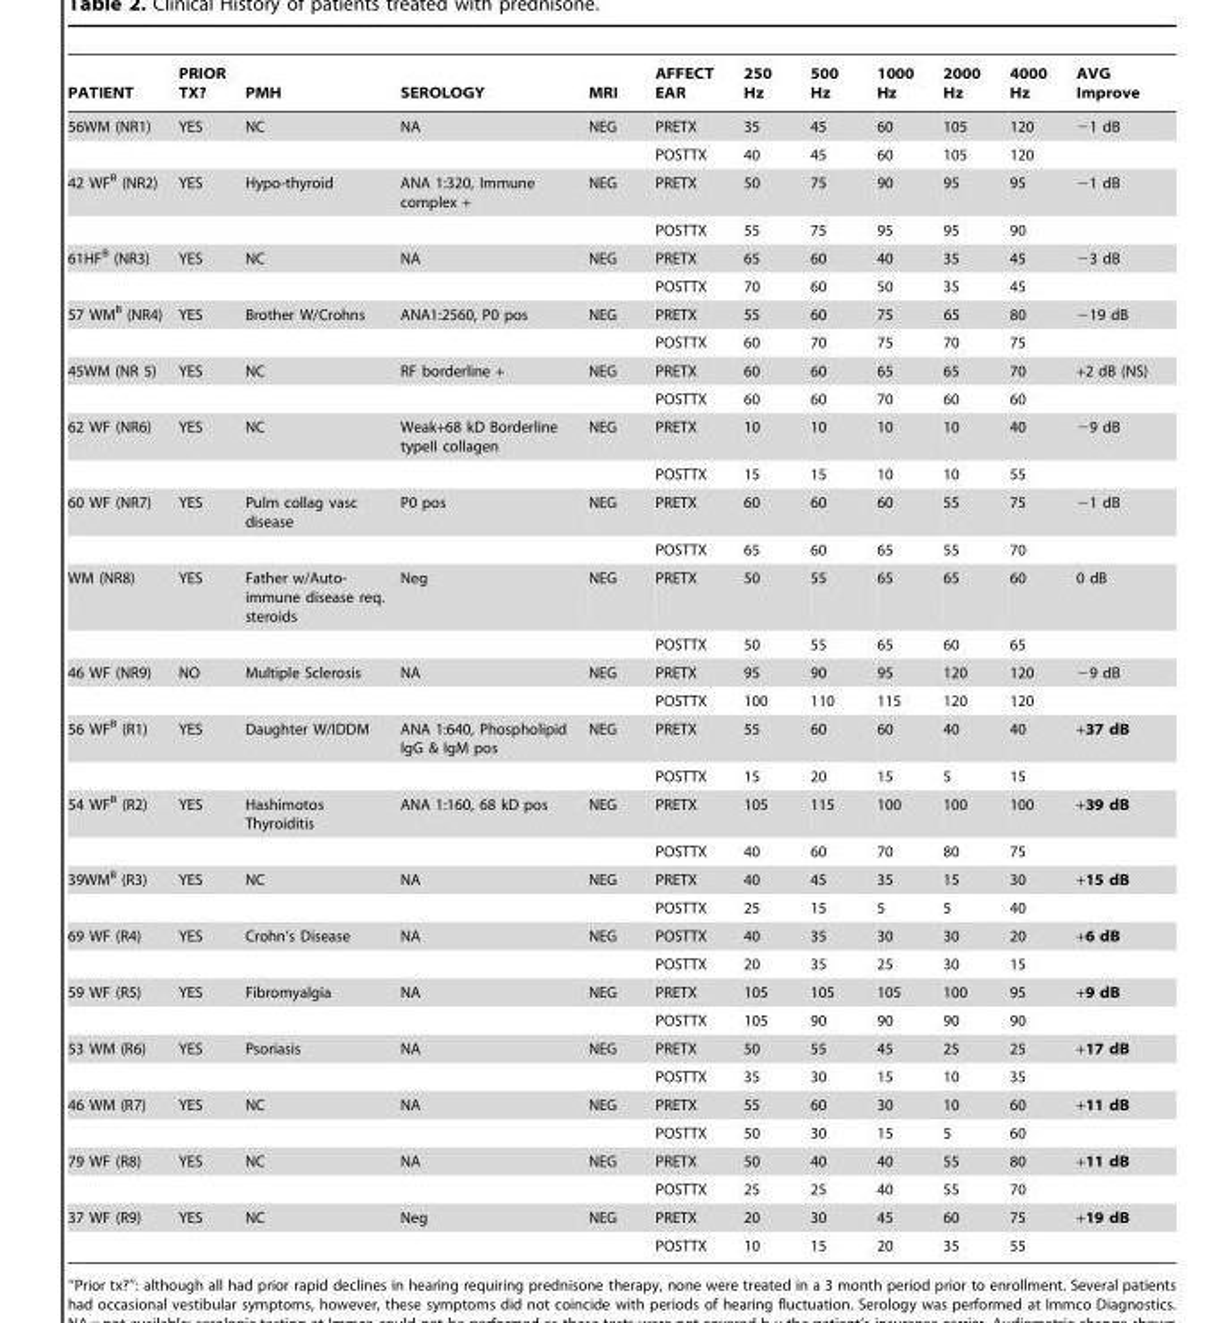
<table><thead><tr><td>PATIENT</td><td>PRIOR TX?</td><td>PMH</td><td>SEROLOGY</td><td>MRI</td><td>AFFECT EAR</td><td>250 Hz</td><td>500 Hz</td><td>1000 Hz</td><td>2000 Hz</td><td>4000 Hz</td><td>AVG Improve</td></tr></thead><tbody><tr><td rowspan="2">56WM (NR1)</td><td>YES</td><td>NC</td><td>NA</td><td>NEG</td><td>PRETX</td><td>35</td><td>45</td><td>60</td><td>105</td><td>120</td><td>−1 dB</td></tr><tr><td></td><td></td><td></td><td></td><td>POSTTX</td><td>40</td><td>45</td><td>60</td><td>105</td><td>120</td><td></td></tr><tr><td rowspan="2">42 WF<sup>B</sup> (NR2)</td><td>YES</td><td>Hypo-thyroid</td><td>ANA 1:320, Immune complex +</td><td>NEG</td><td>PRETX</td><td>50</td><td>75</td><td>90</td><td>95</td><td>95</td><td>−1 dB</td></tr><tr><td></td><td></td><td></td><td></td><td>POSTTX</td><td>55</td><td>75</td><td>95</td><td>95</td><td>90</td><td></td></tr><tr><td rowspan="2">61HF<sup>B</sup> (NR3)</td><td>YES</td><td>NC</td><td>NA</td><td>NEG</td><td>PRETX</td><td>65</td><td>60</td><td>40</td><td>35</td><td>45</td><td>−3 dB</td></tr><tr><td></td><td></td><td></td><td></td><td>POSTTX</td><td>70</td><td>60</td><td>50</td><td>35</td><td>45</td><td></td></tr><tr><td rowspan="2">57 WM<sup>B</sup> (NR4)</td><td>YES</td><td>Brother W/Crohns</td><td>ANA1:2560, P0 pos</td><td>NEG</td><td>PRETX</td><td>55</td><td>60</td><td>75</td><td>65</td><td>80</td><td>−19 dB</td></tr><tr><td></td><td></td><td></td><td></td><td>POSTTX</td><td>60</td><td>70</td><td>75</td><td>70</td><td>75</td><td></td></tr><tr><td rowspan="2">45WM (NR 5)</td><td>YES</td><td>NC</td><td>RF borderline +</td><td>NEG</td><td>PRETX</td><td>60</td><td>60</td><td>65</td><td>65</td><td>70</td><td>+2 dB (NS)</td></tr><tr><td></td><td></td><td></td><td></td><td>POSTTX</td><td>60</td><td>60</td><td>70</td><td>60</td><td>60</td><td></td></tr><tr><td rowspan="2">62 WF (NR6)</td><td>YES</td><td>NC</td><td>Weak+68 kD Borderline typeII collagen</td><td>NEG</td><td>PRETX</td><td>10</td><td>10</td><td>10</td><td>10</td><td>40</td><td>−9 dB</td></tr><tr><td></td><td></td><td></td><td></td><td>POSTTX</td><td>15</td><td>15</td><td>10</td><td>10</td><td>55</td><td></td></tr><tr><td rowspan="2">60 WF (NR7)</td><td>YES</td><td>Pulm collag vasc disease</td><td>P0 pos</td><td>NEG</td><td>PRETX</td><td>60</td><td>60</td><td>60</td><td>55</td><td>75</td><td>−1 dB</td></tr><tr><td></td><td></td><td></td><td></td><td>POSTTX</td><td>65</td><td>60</td><td>65</td><td>55</td><td>70</td><td></td></tr><tr><td rowspan="2">WM (NR8)</td><td>YES</td><td>Father w/Auto- immune disease req. steroids</td><td>Neg</td><td>NEG</td><td>PRETX</td><td>50</td><td>55</td><td>65</td><td>65</td><td>60</td><td>0 dB</td></tr><tr><td></td><td></td><td></td><td></td><td>POSTTX</td><td>50</td><td>55</td><td>65</td><td>60</td><td>65</td><td></td></tr><tr><td rowspan="2">46 WF (NR9)</td><td>NO</td><td>Multiple Sclerosis</td><td>NA</td><td>NEG</td><td>PRETX</td><td>95</td><td>90</td><td>95</td><td>120</td><td>120</td><td>−9 dB</td></tr><tr><td></td><td></td><td></td><td></td><td>POSTTX</td><td>100</td><td>110</td><td>115</td><td>120</td><td>120</td><td></td></tr><tr><td rowspan="2">56 WF<sup>B</sup> (R1)</td><td>YES</td><td>Daughter W/IDDM</td><td>ANA 1:640, Phospholipid IgG &amp; IgM pos</td><td>NEG</td><td>PRETX</td><td>55</td><td>60</td><td>60</td><td>40</td><td>40</td><td>+37 dB</td></tr><tr><td></td><td></td><td></td><td></td><td>POSTTX</td><td>15</td><td>20</td><td>15</td><td>5</td><td>15</td><td></td></tr><tr><td rowspan="2">54 WF<sup>B</sup> (R2)</td><td>YES</td><td>Hashimotos Thyroiditis</td><td>ANA 1:160, 68 kD pos</td><td>NEG</td><td>PRETX</td><td>105</td><td>115</td><td>100</td><td>100</td><td>100</td><td>+39 dB</td></tr><tr><td></td><td></td><td></td><td></td><td>POSTTX</td><td>40</td><td>60</td><td>70</td><td>80</td><td>75</td><td></td></tr><tr><td rowspan="2">39WM<sup>B</sup> (R3)</td><td>YES</td><td>NC</td><td>NA</td><td>NEG</td><td>PRETX</td><td>40</td><td>45</td><td>35</td><td>15</td><td>30</td><td>+15 dB</td></tr><tr><td></td><td></td><td></td><td></td><td>POSTTX</td><td>25</td><td>15</td><td>5</td><td>5</td><td>40</td><td></td></tr><tr><td rowspan="2">69 WF (R4)</td><td>YES</td><td>Crohn’s Disease</td><td>NA</td><td>NEG</td><td>POSTTX</td><td>40</td><td>35</td><td>30</td><td>30</td><td>20</td><td>+6 dB</td></tr><tr><td></td><td></td><td></td><td></td><td>POSTTX</td><td>20</td><td>35</td><td>25</td><td>30</td><td>15</td><td></td></tr><tr><td rowspan="2">59 WF (R5)</td><td>YES</td><td>Fibromyalgia</td><td>NA</td><td>NEG</td><td>PRETX</td><td>105</td><td>105</td><td>105</td><td>100</td><td>95</td><td>+9 dB</td></tr><tr><td></td><td></td><td></td><td></td><td>POSTTX</td><td>105</td><td>90</td><td>90</td><td>90</td><td>90</td><td></td></tr><tr><td rowspan="2">53 WM (R6)</td><td>YES</td><td>Psoriasis</td><td>NA</td><td>NEG</td><td>PRETX</td><td>50</td><td>55</td><td>45</td><td>25</td><td>25</td><td>+17 dB</td></tr><tr><td></td><td></td><td></td><td></td><td>POSTTX</td><td>35</td><td>30</td><td>15</td><td>10</td><td>35</td><td></td></tr><tr><td rowspan="2">46 WM (R7)</td><td>YES</td><td>NC</td><td>NA</td><td>NEG</td><td>PRETX</td><td>55</td><td>60</td><td>30</td><td>10</td><td>60</td><td>+11 dB</td></tr><tr><td></td><td></td><td></td><td></td><td>POSTTX</td><td>50</td><td>30</td><td>15</td><td>5</td><td>60</td><td></td></tr><tr><td rowspan="2">79 WF (R8)</td><td>YES</td><td>NC</td><td>NA</td><td>NEG</td><td>PRETX</td><td>50</td><td>40</td><td>40</td><td>55</td><td>80</td><td>+11 dB</td></tr><tr><td></td><td></td><td></td><td></td><td>POSTTX</td><td>25</td><td>25</td><td>40</td><td>55</td><td>70</td><td></td></tr><tr><td rowspan="2">37 WF (R9)</td><td>YES</td><td>NC</td><td>Neg</td><td>NEG</td><td>PRETX</td><td>20</td><td>30</td><td>45</td><td>60</td><td>75</td><td>+19 dB</td></tr><tr><td></td><td></td><td></td><td></td><td>POSTTX</td><td>10</td><td>15</td><td>20</td><td>35</td><td>55</td><td></td></tr></tbody></table>